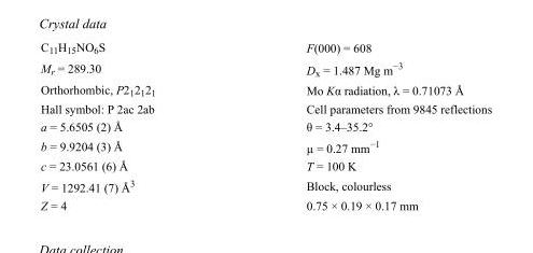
<table><tbody><tr><td>C<sub>11</sub>H<sub>15</sub>NO<sub>6</sub>S</td><td>F(000) = 608</td></tr><tr><td>M<sub>r</sub> = 289.30</td><td>D<sub>x</sub> = 1.487 Mg m<sup>−3</sup></td></tr><tr><td>Orthorhombic, P2<sub>1</sub>2<sub>1</sub>2<sub>1</sub></td><td>Mo Kα radiation, λ = 0.71073 Å</td></tr><tr><td>Hall symbol: P 2ac 2ab</td><td>Cell parameters from 9845 reflections</td></tr><tr><td>a = 5.6505 (2) Å</td><td>θ = 3.4–35.2°</td></tr><tr><td>b = 9.9204 (3) Å</td><td>µ = 0.27 mm<sup>−1</sup></td></tr><tr><td>c = 23.0561 (6) Å</td><td>T = 100 K</td></tr><tr><td>V = 1292.41 (7) Å<sup>3</sup></td><td>Block, colourless</td></tr><tr><td>Z = 4</td><td>0.75 × 0.19 × 0.17 mm</td></tr></tbody></table>